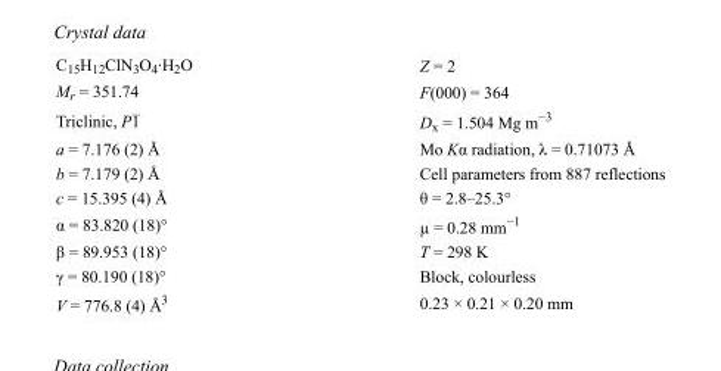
<table><tbody><tr><td>C<sub>15</sub>H<sub>12</sub>ClN<sub>3</sub>O<sub>4</sub>·H<sub>2</sub>O</td><td>Z = 2</td></tr><tr><td>M<sub>r</sub> = 351.74</td><td>F(000) = 364</td></tr><tr><td>Triclinic, P1</td><td>D<sub>x</sub> = 1.504 Mg m<sup>−3</sup></td></tr><tr><td>a = 7.176 (2) Å</td><td>Mo Kα radiation, λ = 0.71073 Å</td></tr><tr><td>b = 7.179 (2) Å</td><td>Cell parameters from 887 reflections</td></tr><tr><td>c = 15.395 (4) Å</td><td>θ = 2.8–25.3°</td></tr><tr><td>α = 83.820 (18)°</td><td>µ = 0.28 mm<sup>−1</sup></td></tr><tr><td>β = 89.953 (18)°</td><td>T = 298 K</td></tr><tr><td>γ = 80.190 (18)°</td><td>Block, colourless</td></tr><tr><td>V = 776.8 (4) Å<sup>3</sup></td><td>0.23 × 0.21 × 0.20 mm</td></tr></tbody></table>